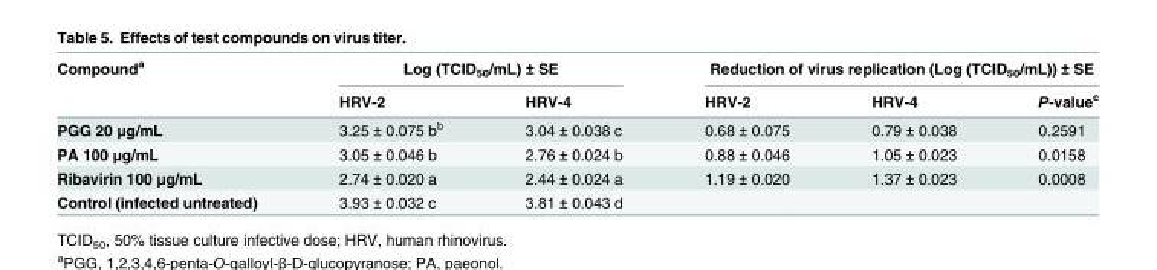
<table><thead><tr><td rowspan="2">Compound<sup>a</sup></td><td colspan="2">Log (TCID<sub>50</sub>/mL) ± SE</td><td colspan="3">Reduction of virus replication (Log (TCID<sub>50</sub>/mL)) ± SE</td></tr><tr><td>HRV-2</td><td>HRV-4</td><td>HRV-2</td><td>HRV-4</td><td>P-value<sup>c</sup></td></tr></thead><tbody><tr><td>PGG 20 μg/mL</td><td>3.25 ± 0.075 b<sup>b</sup></td><td>3.04 ± 0.038 c</td><td>0.68 ± 0.075</td><td>0.79 ± 0.038</td><td>0.2591</td></tr><tr><td>PA 100 μg/mL</td><td>3.05 ± 0.046 b</td><td>2.76 ± 0.024 b</td><td>0.88 ± 0.046</td><td>1.05 ± 0.023</td><td>0.0158</td></tr><tr><td>Ribavirin 100 μg/mL</td><td>2.74 ± 0.020 a</td><td>2.44 ± 0.024 a</td><td>1.19 ± 0.020</td><td>1.37 ± 0.023</td><td>0.0008</td></tr><tr><td>Control (infected untreated)</td><td>3.93 ± 0.032 c</td><td>3.81 ± 0.043 d</td><td></td><td></td><td></td></tr></tbody></table>